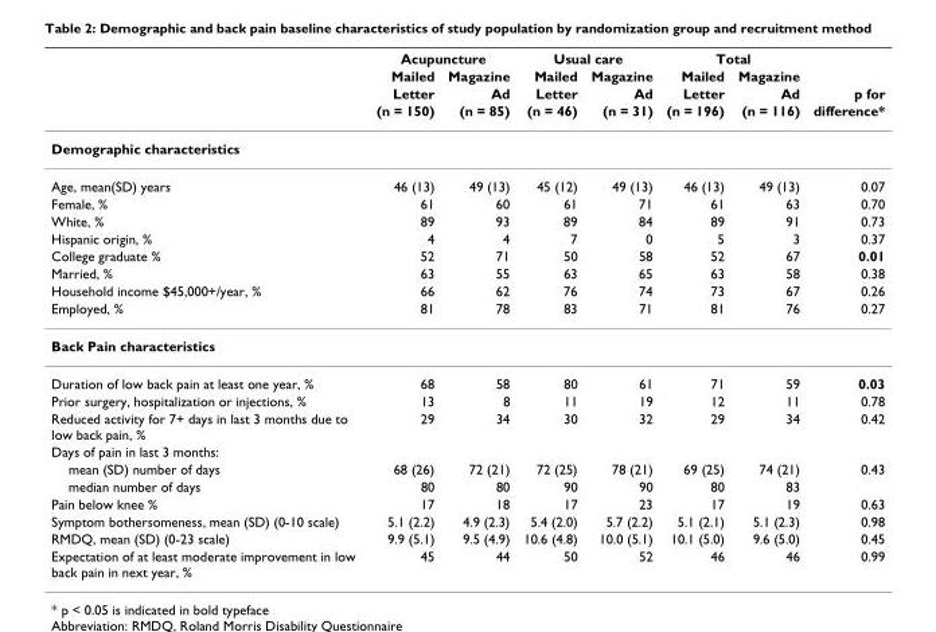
<table><thead><tr><td rowspan="4"></td><td colspan="2">Acupuncture</td><td colspan="2">Usual care</td><td colspan="2">Total</td><td rowspan="4">p for difference*</td></tr><tr><td rowspan="3">Mailed Letter (n = 150)</td><td rowspan="3">Magazine Ad (n = 85)</td><td rowspan="3">Mailed Letter (n = 46)</td><td rowspan="3">Magazine Ad (n = 31)</td><td rowspan="3">Mailed Letter (n = 196)</td><td rowspan="3">Magazine Ad (n = 116)</td></tr><tr></tr><tr></tr></thead><tbody><tr><td colspan="8">Demographic characteristics</td></tr><tr><td>Age, mean(SD) years</td><td>46 (13)</td><td>49 (13)</td><td>45 (12)</td><td>49 (13)</td><td>46 (13)</td><td>49 (13)</td><td>0.07</td></tr><tr><td>Female, %</td><td>61</td><td>60</td><td>61</td><td>71</td><td>61</td><td>63</td><td>0.70</td></tr><tr><td>White, %</td><td>89</td><td>93</td><td>89</td><td>84</td><td>89</td><td>91</td><td>0.73</td></tr><tr><td>Hispanic origin, %</td><td>4</td><td>4</td><td>7</td><td>0</td><td>5</td><td>3</td><td>0.37</td></tr><tr><td>College graduate %</td><td>52</td><td>71</td><td>50</td><td>58</td><td>52</td><td>67</td><td>0.01</td></tr><tr><td>Married, %</td><td>63</td><td>55</td><td>63</td><td>65</td><td>63</td><td>58</td><td>0.38</td></tr><tr><td>Household income $45,000+/year, %</td><td>66</td><td>62</td><td>76</td><td>74</td><td>73</td><td>67</td><td>0.26</td></tr><tr><td>Employed, %</td><td>81</td><td>78</td><td>83</td><td>71</td><td>81</td><td>76</td><td>0.27</td></tr><tr><td colspan="8">Back Pain characteristics</td></tr><tr><td>Duration of low back pain at least one year, %</td><td>68</td><td>58</td><td>80</td><td>61</td><td>71</td><td>59</td><td>0.03</td></tr><tr><td>Prior surgery, hospitalization or injections, %</td><td>13</td><td>8</td><td>11</td><td>19</td><td>12</td><td>11</td><td>0.78</td></tr><tr><td>Reduced activity for 7+ days in last 3 months due to low back pain, %</td><td>29</td><td>34</td><td>30</td><td>32</td><td>29</td><td>34</td><td>0.42</td></tr><tr><td colspan="8">Days of pain in last 3 months:</td></tr><tr><td>mean (SD) number of days</td><td>68 (26)</td><td>72 (21)</td><td>72 (25)</td><td>78 (21)</td><td>69 (25)</td><td>74 (21)</td><td>0.43</td></tr><tr><td>median number of days</td><td>80</td><td>80</td><td>90</td><td>90</td><td>80</td><td>83</td><td></td></tr><tr><td>Pain below knee %</td><td>17</td><td>18</td><td>17</td><td>23</td><td>17</td><td>19</td><td>0.63</td></tr><tr><td>Symptom bothersomeness, mean (SD) (0-10 scale)</td><td>5.1 (2.2)</td><td>4.9 (2.3)</td><td>5.4 (2.0)</td><td>5.7 (2.2)</td><td>5.1 (2.1)</td><td>5.1 (2.3)</td><td>0.98</td></tr><tr><td>RMDQ, mean (SD) (0-23 scale)</td><td>9.9 (5.1)</td><td>9.5 (4.9)</td><td>10.6 (4.8)</td><td>10.0 (5.1)</td><td>10.1 (5.0)</td><td>9.6 (5.0)</td><td>0.45</td></tr><tr><td>Expectation of at least moderate improvement in low back pain in next year, %</td><td>45</td><td>44</td><td>50</td><td>52</td><td>46</td><td>46</td><td>0.99</td></tr></tbody></table>